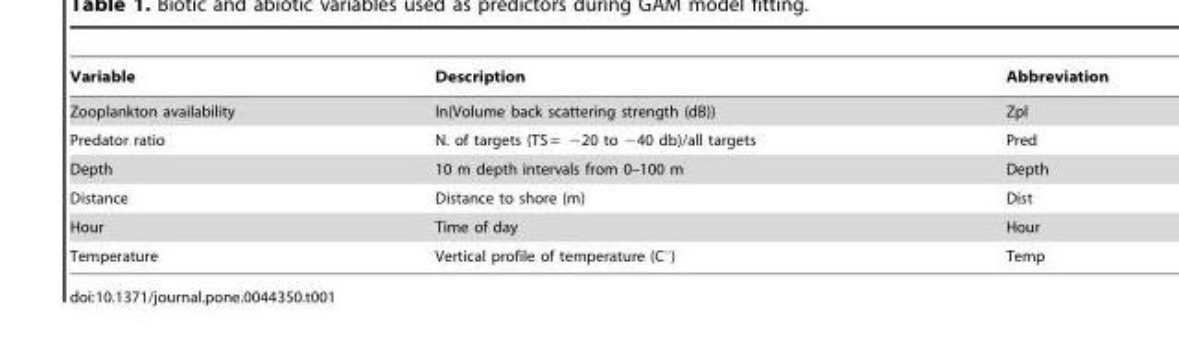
<table><thead><tr><td>Variable</td><td>Description</td><td>Abbreviation</td></tr></thead><tbody><tr><td>Zooplankton availability</td><td>ln(Volume back scattering strength (dB))</td><td>Zpl</td></tr><tr><td>Predator ratio</td><td>N. of targets (TS = −20 to −40 db)/all targets</td><td>Pred</td></tr><tr><td>Depth</td><td>10 m depth intervals from 0–100 m</td><td>Depth</td></tr><tr><td>Distance</td><td>Distance to shore (m)</td><td>Dist</td></tr><tr><td>Hour</td><td>Time of day</td><td>Hour</td></tr><tr><td>Temperature</td><td>Vertical profile of temperature (C°)</td><td>Temp</td></tr></tbody></table>